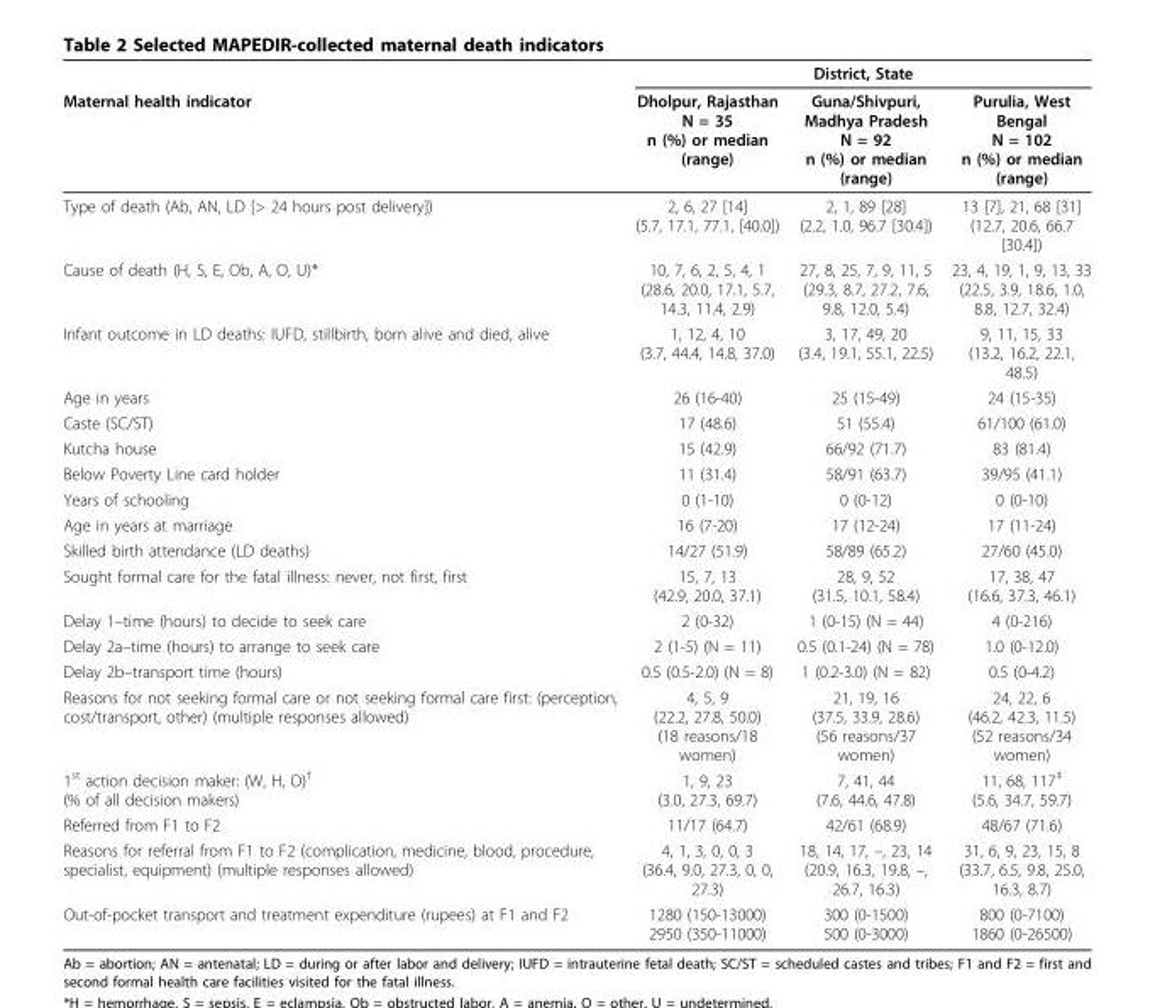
<table><thead><tr><td rowspan="2">Maternal health indicator</td><td colspan="3">District, State</td></tr><tr><td>Dholpur, Rajasthan N = 35 n (%) or median (range)</td><td>Guna/Shivpuri, Madhya Pradesh N = 92 n (%) or median (range)</td><td>Purulia, West Bengal N = 102 n (%) or median (range)</td></tr></thead><tbody><tr><td>Type of death (Ab, AN, LD [&gt; 24 hours post delivery])</td><td>2, 6, 27 [14] (5.7, 17.1, 77.1, [40.0])</td><td>2, 1, 89 [28] (2.2, 1.0, 96.7 [30.4])</td><td>13 [7], 21, 68 [31] (12.7, 20.6, 66.7 [30.4])</td></tr><tr><td>Cause of death (H, S, E, Ob, A, O, U)*</td><td>10, 7, 6, 2, 5, 4, 1 (28.6, 20.0, 17.1, 5.7, 14.3, 11.4, 2.9)</td><td>27, 8, 25, 7, 9, 11, 5 (29.3, 8.7, 27.2, 7.6, 9.8, 12.0, 5.4)</td><td>23, 4, 19, 1, 9, 13, 33 (22.5, 3.9, 18.6, 1.0, 8.8, 12.7, 32.4)</td></tr><tr><td>Infant outcome in LD deaths: IUFD, stillbirth, born alive and died, alive</td><td>1, 12, 4, 10 (3.7, 44.4, 14.8, 37.0)</td><td>3, 17, 49, 20 (3.4, 19.1, 55.1, 22.5)</td><td>9, 11, 15, 33 (13.2, 16.2, 22.1, 48.5)</td></tr><tr><td>Age in years</td><td>26 (16-40)</td><td>25 (15-49)</td><td>24 (15-35)</td></tr><tr><td>Caste (SC/ST)</td><td>17 (48.6)</td><td>51 (55.4)</td><td>61/100 (61.0)</td></tr><tr><td>Kutcha house</td><td>15 (42.9)</td><td>66/92 (71.7)</td><td>83 (81.4)</td></tr><tr><td>Below Poverty Line card holder</td><td>11 (31.4)</td><td>58/91 (63.7)</td><td>39/95 (41.1)</td></tr><tr><td>Years of schooling</td><td>0 (1-10)</td><td>0 (0-12)</td><td>0 (0-10)</td></tr><tr><td>Age in years at marriage</td><td>16 (7-20)</td><td>17 (12-24)</td><td>17 (11-24)</td></tr><tr><td>Skilled birth attendance (LD deaths)</td><td>14/27 (51.9)</td><td>58/89 (65.2)</td><td>27/60 (45.0)</td></tr><tr><td>Sought formal care for the fatal illness: never, not first, first</td><td>15, 7, 13 (42.9, 20.0, 37.1)</td><td>28, 9, 52 (31.5, 10.1, 58.4)</td><td>17, 38, 47 (16.6, 37.3, 46.1)</td></tr><tr><td>Delay 1–time (hours) to decide to seek care</td><td>2 (0-32)</td><td>1 (0-15) (N = 44)</td><td>4 (0-216)</td></tr><tr><td>Delay 2a–time (hours) to arrange to seek care</td><td>2 (1-5) (N = 11)</td><td>0.5 (0.1-24) (N = 78)</td><td>1.0 (0-12.0)</td></tr><tr><td>Delay 2b–transport time (hours)</td><td>0.5 (0.5-2.0) (N = 8)</td><td>1 (0.2-3.0) (N = 82)</td><td>0.5 (0-4.2)</td></tr><tr><td>Reasons for not seeking formal care or not seeking formal care first: (perception, cost/transport, other) (multiple responses allowed)</td><td>4, 5, 9 (22.2, 27.8, 50.0) (18 reasons/18 women)</td><td>21, 19, 16 (37.5, 33.9, 28.6) (56 reasons/37 women)</td><td>24, 22, 6 (46.2, 42.3, 11.5) (52 reasons/34 women)</td></tr><tr><td>1<sup>st</sup> action decision maker: (W, H, O)<sup>†</sup> (% of all decision makers)</td><td>1, 9, 23 (3.0, 27.3, 69.7)</td><td>7, 41, 44 (7.6, 44.6, 47.8)</td><td>11, 68, 117<sup>‡</sup> (5.6, 34.7, 59.7)</td></tr><tr><td>Referred from F1 to F2</td><td>11/17 (64.7)</td><td>42/61 (68.9)</td><td>48/67 (71.6)</td></tr><tr><td>Reasons for referral from F1 to F2 (complication, medicine, blood, procedure, specialist, equipment) (multiple responses allowed)</td><td>4, 1, 3, 0, 0, 3 (36.4, 9.0, 27.3, 0, 0, 27.3)</td><td>18, 14, 17, –, 23, 14 (20.9, 16.3, 19.8, –, 26.7, 16.3)</td><td>31, 6, 9, 23, 15, 8 (33.7, 6.5, 9.8, 25.0, 16.3, 8.7)</td></tr><tr><td>Out-of-pocket transport and treatment expenditure (rupees) at F1 and F2</td><td>1280 (150-13000) 2950 (350-11000)</td><td>300 (0-1500) 500 (0-3000)</td><td>800 (0-7100) 1860 (0-26500)</td></tr></tbody></table>